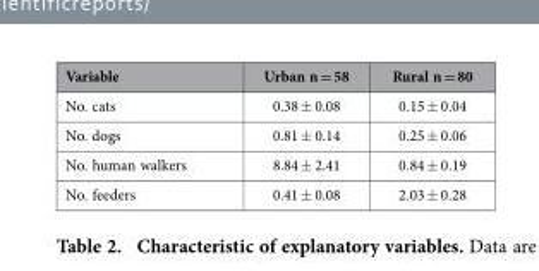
<table><thead><tr><td>Variable</td><td>Urban n = 58</td><td>Rural n = 80</td></tr></thead><tbody><tr><td>No. cats</td><td>0.38 ± 0.08</td><td>0.15 ± 0.04</td></tr><tr><td>No. dogs</td><td>0.81 ± 0.14</td><td>0.25 ± 0.06</td></tr><tr><td>No. human walkers</td><td>8.84 ± 2.41</td><td>0.84 ± 0.19</td></tr><tr><td>No. feeders</td><td>0.41 ± 0.08</td><td>2.03 ± 0.28</td></tr></tbody></table>